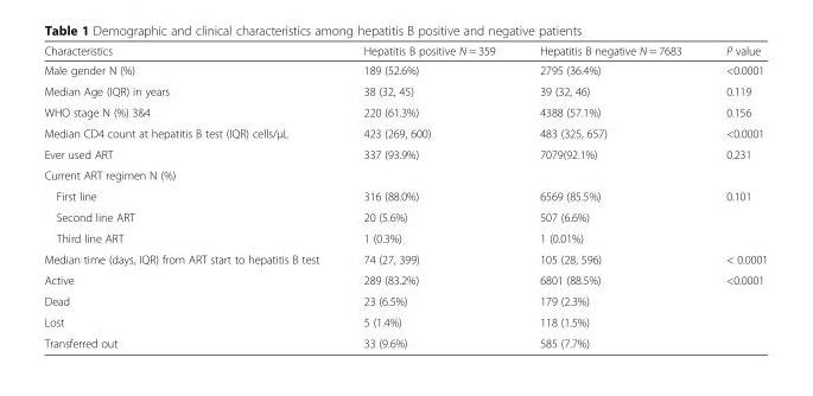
<table><thead><tr><td>Characteristics</td><td>Hepatitis B positive N = 359</td><td>Hepatitis B negative N = 7683</td><td>P value</td></tr></thead><tbody><tr><td>Male gender N (%)</td><td>189 (52.6%)</td><td>2795 (36.4%)</td><td>&lt;0.0001</td></tr><tr><td>Median Age (IQR) in years</td><td>38 (32, 45)</td><td>39 (32, 46)</td><td>0.119</td></tr><tr><td>WHO stage N (%) 3&amp;4</td><td>220 (61.3%)</td><td>4388 (57.1%)</td><td>0.156</td></tr><tr><td>Median CD4 count at hepatitis B test (IQR) cells/μL</td><td>423 (269, 600)</td><td>483 (325, 657)</td><td>&lt;0.0001</td></tr><tr><td>Ever used ART</td><td>337 (93.9%)</td><td>7079(92.1%)</td><td>0.231</td></tr><tr><td colspan="4">Current ART regimen N (%)</td></tr><tr><td>First line</td><td>316 (88.0%)</td><td>6569 (85.5%)</td><td>0.101</td></tr><tr><td>Second line ART</td><td>20 (5.6%)</td><td>507 (6.6%)</td><td></td></tr><tr><td>Third line ART</td><td>1 (0.3%)</td><td>1 (0.01%)</td><td></td></tr><tr><td>Median time (days, IQR) from ART start to hepatitis B test</td><td>74 (27, 399)</td><td>105 (28, 596)</td><td>&lt; 0.0001</td></tr><tr><td>Active</td><td>289 (83.2%)</td><td>6801 (88.5%)</td><td>&lt;0.0001</td></tr><tr><td>Dead</td><td>23 (6.5%)</td><td>179 (2.3%)</td><td></td></tr><tr><td>Lost</td><td>5 (1.4%)</td><td>118 (1.5%)</td><td></td></tr><tr><td>Transferred out</td><td>33 (9.6%)</td><td>585 (7.7%)</td><td></td></tr></tbody></table>